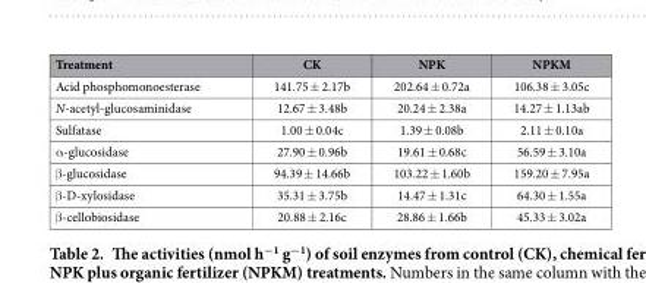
<table><thead><tr><td>Treatment</td><td>CK</td><td>NPK</td><td>NPKM</td></tr></thead><tbody><tr><td>Acid phosphomonoesterase</td><td>141.75 ± 2.17b</td><td>202.64 ± 0.72a</td><td>106.38 ± 3.05c</td></tr><tr><td>N-acetyl-glucosaminidase</td><td>12.67 ± 3.48b</td><td>20.24 ± 2.38a</td><td>14.27 ± 1.13ab</td></tr><tr><td>Sulfatase</td><td>1.00 ± 0.04c</td><td>1.39 ± 0.08b</td><td>2.11 ± 0.10a</td></tr><tr><td>α -glucosidase</td><td>27.90 ± 0.96b</td><td>19.61 ± 0.68c</td><td>56.59 ± 3.10a</td></tr><tr><td>β -glucosidase</td><td>94.39 ± 14.66b</td><td>103.22 ± 1.60b</td><td>159.20 ± 7.95a</td></tr><tr><td>β -D-xylosidase</td><td>35.31 ± 3.75b</td><td>14.47 ± 1.31c</td><td>64.30 ± 1.55a</td></tr><tr><td>β -cellobiosidase</td><td>20.88 ± 2.16c</td><td>28.86 ± 1.66b</td><td>45.33 ± 3.02a</td></tr></tbody></table>